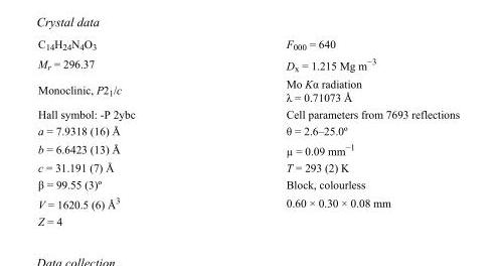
<table><tbody><tr><td>C<sub>14</sub>H<sub>24</sub>N<sub>4</sub>O<sub>3</sub></td><td>F<sub>000</sub> = 640</td></tr><tr><td>M<sub>r</sub> = 296.37</td><td>D<sub>x</sub> = 1.215 Mg m<sup>−3</sup></td></tr><tr><td>Monoclinic, P2<sub>1</sub>/c</td><td>Mo Kα radiation λ = 0.71073 Å</td></tr><tr><td>Hall symbol: -P 2ybc</td><td>Cell parameters from 7693 reflections</td></tr><tr><td>a = 7.9318 (16) Å</td><td>θ = 2.6–25.0º</td></tr><tr><td>b = 6.6423 (13) Å</td><td>µ = 0.09 mm<sup>−1</sup></td></tr><tr><td>c = 31.191 (7) Å</td><td>T = 293 (2) K</td></tr><tr><td>β = 99.55 (3)º</td><td>Block, colourless</td></tr><tr><td>V = 1620.5 (6) Å<sup>3</sup></td><td>0.60 × 0.30 × 0.08 mm</td></tr><tr><td>Z = 4</td><td></td></tr></tbody></table>